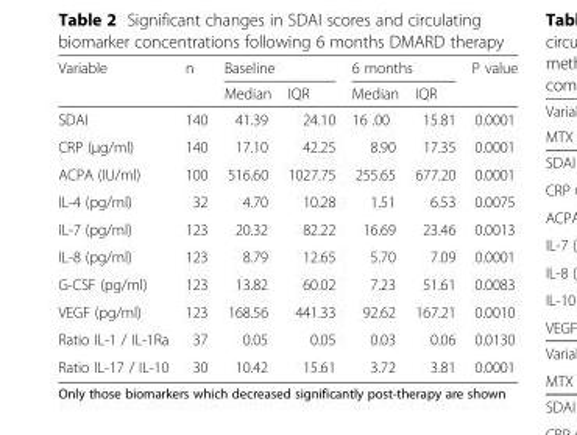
<table><thead><tr><td rowspan="2">Variable</td><td rowspan="2">n</td><td colspan="2">Baseline</td><td colspan="2">6 months</td><td rowspan="2">P value</td></tr><tr><td>Median</td><td>IQR</td><td>Median</td><td>IQR</td></tr></thead><tbody><tr><td>SDAI</td><td>140</td><td>41.39</td><td>24.10</td><td>16 .00</td><td>15.81</td><td>0.0001</td></tr><tr><td>CRP (μg/ml)</td><td>140</td><td>17.10</td><td>42.25</td><td>8.90</td><td>17.35</td><td>0.0001</td></tr><tr><td>ACPA (IU/ml)</td><td>100</td><td>516.60</td><td>1027.75</td><td>255.65</td><td>677.20</td><td>0.0001</td></tr><tr><td>IL-4 (pg/ml)</td><td>32</td><td>4.70</td><td>10.28</td><td>1.51</td><td>6.53</td><td>0.0075</td></tr><tr><td>IL-7 (pg/ml)</td><td>123</td><td>20.32</td><td>82.22</td><td>16.69</td><td>23.46</td><td>0.0013</td></tr><tr><td>IL-8 (pg/ml)</td><td>123</td><td>8.79</td><td>12.65</td><td>5.70</td><td>7.09</td><td>0.0001</td></tr><tr><td>G-CSF (pg/ml)</td><td>123</td><td>13.82</td><td>60.02</td><td>7.23</td><td>51.61</td><td>0.0083</td></tr><tr><td>VEGF (pg/ml)</td><td>123</td><td>168.56</td><td>441.33</td><td>92.62</td><td>167.21</td><td>0.0010</td></tr><tr><td>Ratio IL-1 / IL-1Ra</td><td>37</td><td>0.05</td><td>0.05</td><td>0.03</td><td>0.06</td><td>0.0130</td></tr><tr><td>Ratio IL-17 / IL-10</td><td>30</td><td>10.42</td><td>15.61</td><td>3.72</td><td>3.81</td><td>0.0001</td></tr></tbody></table>